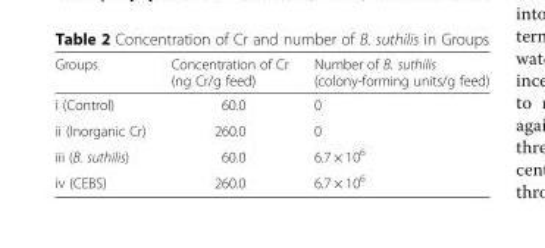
<table><thead><tr><td>Groups</td><td>Concentration of Cr (ng Cr/g feed)</td><td>Number of B. suthilis (colony-forming units/g feed)</td></tr></thead><tbody><tr><td>i (Control)</td><td>60.0</td><td>0</td></tr><tr><td>ii (Inorganic Cr)</td><td>260.0</td><td>0</td></tr><tr><td>iii (B. suthilis)</td><td>60.0</td><td>6.7 × 10<sup>6</sup></td></tr><tr><td>iv (CEBS)</td><td>260.0</td><td>6.7 × 10<sup>6</sup></td></tr></tbody></table>